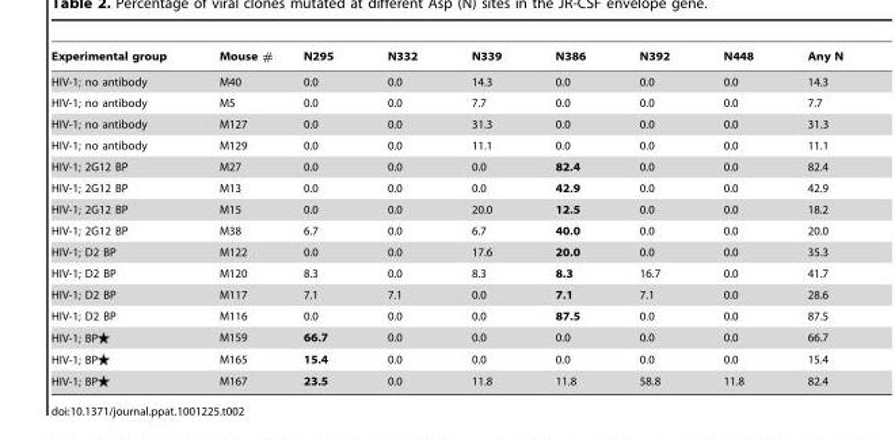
<table><thead><tr><td>Experimental group</td><td>Mouse #</td><td>N295</td><td>N332</td><td>N339</td><td>N386</td><td>N392</td><td>N448</td><td>Any N</td></tr></thead><tbody><tr><td>HIV-1; no antibody</td><td>M40</td><td>0.0</td><td>0.0</td><td>14.3</td><td>0.0</td><td>0.0</td><td>0.0</td><td>14.3</td></tr><tr><td>HIV-1; no antibody</td><td>M5</td><td>0.0</td><td>0.0</td><td>7.7</td><td>0.0</td><td>0.0</td><td>0.0</td><td>7.7</td></tr><tr><td>HIV-1; no antibody</td><td>M127</td><td>0.0</td><td>0.0</td><td>31.3</td><td>0.0</td><td>0.0</td><td>0.0</td><td>31.3</td></tr><tr><td>HIV-1; no antibody</td><td>M129</td><td>0.0</td><td>0.0</td><td>11.1</td><td>0.0</td><td>0.0</td><td>0.0</td><td>11.1</td></tr><tr><td>HIV-1; 2G12 BP</td><td>M27</td><td>0.0</td><td>0.0</td><td>0.0</td><td>82.4</td><td>0.0</td><td>0.0</td><td>82.4</td></tr><tr><td>HIV-1; 2G12 BP</td><td>M13</td><td>0.0</td><td>0.0</td><td>0.0</td><td>42.9</td><td>0.0</td><td>0.0</td><td>42.9</td></tr><tr><td>HIV-1; 2G12 BP</td><td>M15</td><td>0.0</td><td>0.0</td><td>20.0</td><td>12.5</td><td>0.0</td><td>0.0</td><td>18.2</td></tr><tr><td>HIV-1; 2G12 BP</td><td>M38</td><td>6.7</td><td>0.0</td><td>6.7</td><td>40.0</td><td>0.0</td><td>0.0</td><td>20.0</td></tr><tr><td>HIV-1; D2 BP</td><td>M122</td><td>0.0</td><td>0.0</td><td>17.6</td><td>20.0</td><td>0.0</td><td>0.0</td><td>35.3</td></tr><tr><td>HIV-1; D2 BP</td><td>M120</td><td>8.3</td><td>0.0</td><td>8.3</td><td>8.3</td><td>16.7</td><td>0.0</td><td>41.7</td></tr><tr><td>HIV-1; D2 BP</td><td>M117</td><td>7.1</td><td>7.1</td><td>0.0</td><td>7.1</td><td>7.1</td><td>0.0</td><td>28.6</td></tr><tr><td>HIV-1; D2 BP</td><td>M116</td><td>0.0</td><td>0.0</td><td>0.0</td><td>87.5</td><td>0.0</td><td>0.0</td><td>87.5</td></tr><tr><td>HIV-1; BP</td><td>M159</td><td>66.7</td><td>0.0</td><td>0.0</td><td>0.0</td><td>0.0</td><td>0.0</td><td>66.7</td></tr><tr><td>HIV-1; BP</td><td>M165</td><td>15.4</td><td>0.0</td><td>0.0</td><td>0.0</td><td>0.0</td><td>0.0</td><td>15.4</td></tr><tr><td>HIV-1; BP</td><td>M167</td><td>23.5</td><td>0.0</td><td>11.8</td><td>11.8</td><td>58.8</td><td>11.8</td><td>82.4</td></tr></tbody></table>